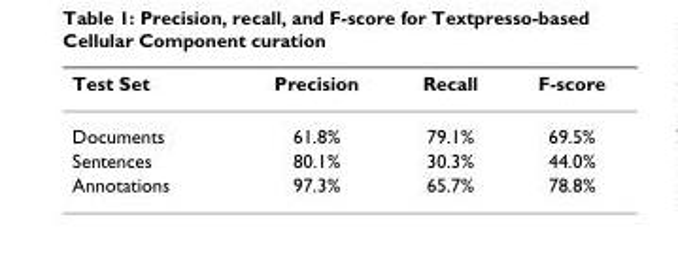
<table><thead><tr><td>Test Set</td><td>Precision</td><td>Recall</td><td>F-score</td></tr></thead><tbody><tr><td>Documents</td><td>61.8%</td><td>79.1%</td><td>69.5%</td></tr><tr><td>Sentences</td><td>80.1%</td><td>30.3%</td><td>44.0%</td></tr><tr><td>Annotations</td><td>97.3%</td><td>65.7%</td><td>78.8%</td></tr></tbody></table>